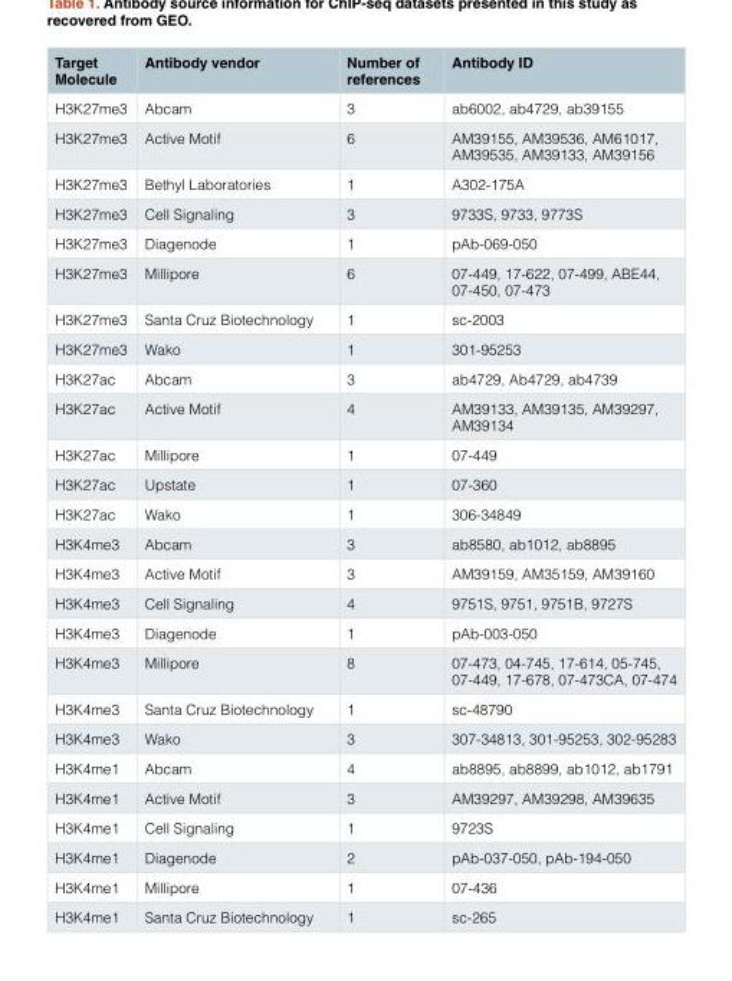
<table><thead><tr><td>Target Molecule</td><td>Antibody vendor</td><td>Number of references</td><td>Antibody ID</td></tr></thead><tbody><tr><td>H3K27me3</td><td>Abcam</td><td>3</td><td>ab6002, ab4729, ab39155</td></tr><tr><td>H3K27me3</td><td>Active Motif</td><td>6</td><td>AM39155, AM39536, AM61017, AM39535, AM39133, AM39156</td></tr><tr><td>H3K27me3</td><td>Bethyl Laboratories</td><td>1</td><td>A302-175A</td></tr><tr><td>H3K27me3</td><td>Cell Signaling</td><td>3</td><td>9733S, 9733, 9773S</td></tr><tr><td>H3K27me3</td><td>Diagenode</td><td>1</td><td>pAb-069-050</td></tr><tr><td>H3K27me3</td><td>Millipore</td><td>6</td><td>07-449, 17-622, 07-499, ABE44, 07-450, 07-473</td></tr><tr><td>H3K27me3</td><td>Santa Cruz Biotechnology</td><td>1</td><td>sc-2003</td></tr><tr><td>H3K27me3</td><td>Wako</td><td>1</td><td>301-95253</td></tr><tr><td>H3K27ac</td><td>Abcam</td><td>3</td><td>ab4729, Ab4729, ab4739</td></tr><tr><td>H3K27ac</td><td>Active Motif</td><td>4</td><td>AM39133, AM39135, AM39297, AM39134</td></tr><tr><td>H3K27ac</td><td>Millipore</td><td>1</td><td>07-449</td></tr><tr><td>H3K27ac</td><td>Upstate</td><td>1</td><td>07-360</td></tr><tr><td>H3K27ac</td><td>Wako</td><td>1</td><td>306-34849</td></tr><tr><td>H3K4me3</td><td>Abcam</td><td>3</td><td>ab8580, ab1012, ab8895</td></tr><tr><td>H3K4me3</td><td>Active Motif</td><td>3</td><td>AM39159, AM35159, AM39160</td></tr><tr><td>H3K4me3</td><td>Cell Signaling</td><td>4</td><td>9751S, 9751, 9751B, 9727S</td></tr><tr><td>H3K4me3</td><td>Diagenode</td><td>1</td><td>pAb-003-050</td></tr><tr><td>H3K4me3</td><td>Millipore</td><td>8</td><td>07-473, 04-745, 17-614, 05-745, 07-449, 17-678, 07-473CA, 07-474</td></tr><tr><td>H3K4me3</td><td>Santa Cruz Biotechnology</td><td>1</td><td>sc-48790</td></tr><tr><td>H3K4me3</td><td>Wako</td><td>3</td><td>307-34813, 301-95253, 302-95283</td></tr><tr><td>H3K4me1</td><td>Abcam</td><td>4</td><td>ab8895, ab8899, ab1012, ab1791</td></tr><tr><td>H3K4me1</td><td>Active Motif</td><td>3</td><td>AM39297, AM39298, AM39635</td></tr><tr><td>H3K4me1</td><td>Cell Signaling</td><td>1</td><td>9723S</td></tr><tr><td>H3K4me1</td><td>Diagenode</td><td>2</td><td>pAb-037-050, pAb-194-050</td></tr><tr><td>H3K4me1</td><td>Millipore</td><td>1</td><td>07-436</td></tr><tr><td>H3K4me1</td><td>Santa Cruz Biotechnology</td><td>1</td><td>sc-265</td></tr></tbody></table>